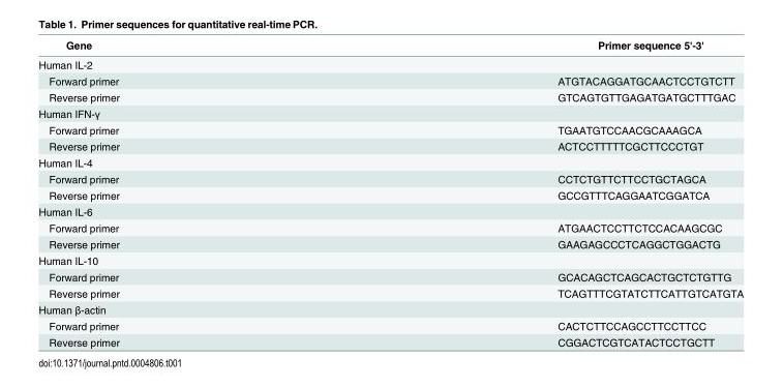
<table><thead><tr><td>Gene</td><td>Primer sequence 5&#x27;-3&#x27;</td></tr></thead><tbody><tr><td colspan="2">Human IL-2</td></tr><tr><td>Forward primer</td><td>ATGTACAGGATGCAACTCCTGTCTT</td></tr><tr><td>Reverse primer</td><td>GTCAGTGTTGAGATGATGCTTTGAC</td></tr><tr><td colspan="2">Human IFN-γ</td></tr><tr><td>Forward primer</td><td>TGAATGTCCAACGCAAAGCA</td></tr><tr><td>Reverse primer</td><td>ACTCCTTTTTCGCTTCCCTGT</td></tr><tr><td colspan="2">Human IL-4</td></tr><tr><td>Forward primer</td><td>CCTCTGTTCTTCCTGCTAGCA</td></tr><tr><td>Reverse primer</td><td>GCCGTTTCAGGAATCGGATCA</td></tr><tr><td colspan="2">Human IL-6</td></tr><tr><td>Forward primer</td><td>ATGAACTCCTTCTCCACAAGCGC</td></tr><tr><td>Reverse primer</td><td>GAAGAGCCCTCAGGCTGGACTG</td></tr><tr><td colspan="2">Human IL-10</td></tr><tr><td>Forward primer</td><td>GCACAGCTCAGCACTGCTCTGTTG</td></tr><tr><td>Reverse primer</td><td>TCAGTTTCGTATCTTCATTGTCATGTA</td></tr><tr><td colspan="2">Human β-actin</td></tr><tr><td>Forward primer</td><td>CACTCTTCCAGCCTTCCTTCC</td></tr><tr><td>Reverse primer</td><td>CGGACTCGTCATACTCCTGCTT</td></tr></tbody></table>